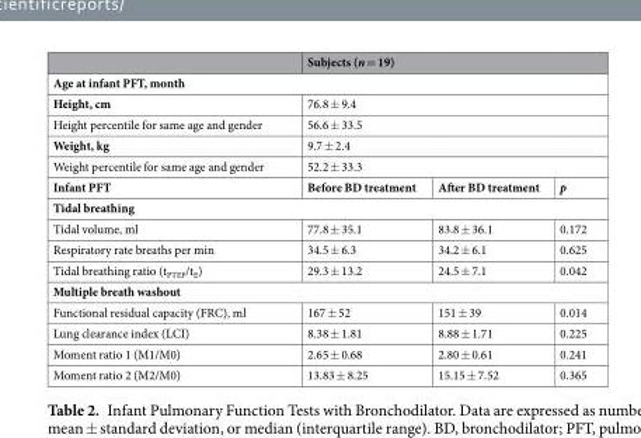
<table><thead><tr><td></td><td colspan="3">Subjects (n = 19)</td></tr></thead><tbody><tr><td colspan="4">Age at infant PFT, month</td></tr><tr><td>Height, cm</td><td colspan="3">76.8 ± 9.4</td></tr><tr><td>Height percentile for same age and gender</td><td colspan="3">56.6 ± 33.5</td></tr><tr><td>Weight, kg</td><td colspan="3">9.7 ± 2.4</td></tr><tr><td>Weight percentile for same age and gender</td><td colspan="3">52.2 ± 33.3</td></tr><tr><td>Infant PFT</td><td>Before BD treatment</td><td>After BD treatment</td><td>p</td></tr><tr><td colspan="4">Tidal breathing</td></tr><tr><td>Tidal volume, ml</td><td>77.8 ± 35.1</td><td>83.8 ± 36.1</td><td>0.172</td></tr><tr><td>Respiratory rate breaths per min</td><td>34.5 ± 6.3</td><td>34.2 ± 6.1</td><td>0.625</td></tr><tr><td>Tidal breathing ratio (t<sub>PTEF</sub>/t<sub>E</sub>)</td><td>29.3 ± 13.2</td><td>24.5 ± 7.1</td><td>0.042</td></tr><tr><td colspan="4">Multiple breath washout</td></tr><tr><td>Functional residual capacity (FRC), ml</td><td>167 ± 52</td><td>151 ± 39</td><td>0.014</td></tr><tr><td>Lung clearance index (LCI)</td><td>8.38 ± 1.81</td><td>8.88 ± 1.71</td><td>0.225</td></tr><tr><td>Moment ratio 1 (M1/M0)</td><td>2.65 ± 0.68</td><td>2.80 ± 0.61</td><td>0.241</td></tr><tr><td>Moment ratio 2 (M2/M0)</td><td>13.83 ± 8.25</td><td>15.15 ± 7.52</td><td>0.365</td></tr></tbody></table>